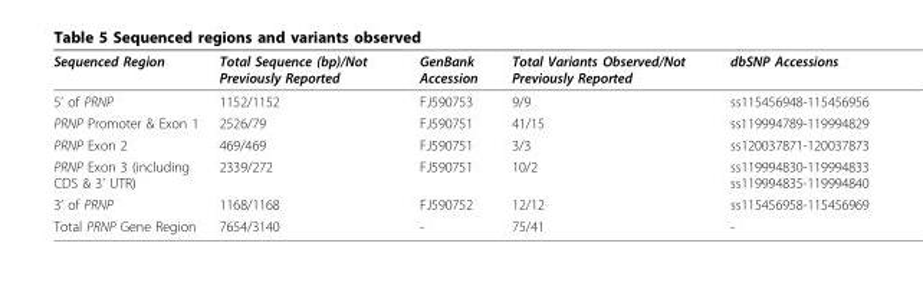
<table><thead><tr><td>Sequenced Region</td><td>Total Sequence (bp)/Not Previously Reported</td><td>GenBank Accession</td><td>Total Variants Observed/Not Previously Reported</td><td>dbSNP Accessions</td></tr></thead><tbody><tr><td>5’ of PRNP</td><td>1152/1152</td><td>FJ590753</td><td>9/9</td><td>ss115456948-115456956</td></tr><tr><td>PRNP Promoter &amp; Exon 1</td><td>2526/79</td><td>FJ590751</td><td>41/15</td><td>ss119994789-119994829</td></tr><tr><td>PRNP Exon 2</td><td>469/469</td><td>FJ590751</td><td>3/3</td><td>ss120037871-120037873</td></tr><tr><td>PRNP Exon 3 (including CDS &amp; 3’ UTR)</td><td>2339/272</td><td>FJ590751</td><td>10/2</td><td>ss119994830-119994833 ss119994835-119994840</td></tr><tr><td>3’ of PRNP</td><td>1168/1168</td><td>FJ590752</td><td>12/12</td><td>ss115456958-115456969</td></tr><tr><td>Total PRNP Gene Region</td><td>7654/3140</td><td>-</td><td>75/41</td><td>-</td></tr></tbody></table>